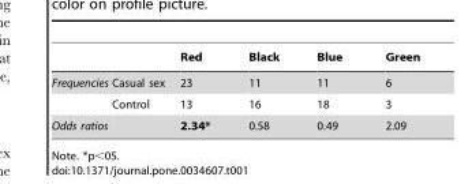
<table><thead><tr><td></td><td></td><td>Red</td><td>Black</td><td>Blue</td><td>Green</td></tr></thead><tbody><tr><td rowspan="2">Frequencies</td><td>Casual sex</td><td>23</td><td>11</td><td>11</td><td>6</td></tr><tr><td>Control</td><td>13</td><td>16</td><td>18</td><td>3</td></tr><tr><td>Odds ratios</td><td></td><td>2.34*</td><td>0.58</td><td>0.49</td><td>2.09</td></tr></tbody></table>